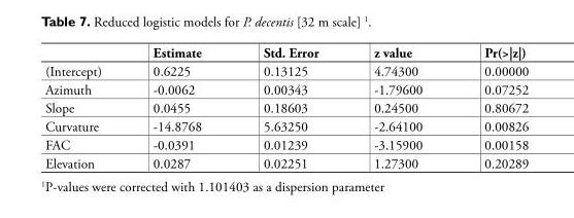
<table><thead><tr><td></td><td>Estimate</td><td>Std. Error</td><td>z value</td><td>Pr(&gt;|z|)</td></tr></thead><tbody><tr><td>(Intercept)</td><td>0.6225</td><td>0.13125</td><td>4.74300</td><td>0.00000</td></tr><tr><td>Azimuth</td><td>-0.0062</td><td>0.00343</td><td>-1.79600</td><td>0.07252</td></tr><tr><td>Slope</td><td>0.0455</td><td>0.18603</td><td>0.24500</td><td>0.80672</td></tr><tr><td>Curvature</td><td>-14.8768</td><td>5.63250</td><td>-2.64100</td><td>0.00826</td></tr><tr><td>FAC</td><td>-0.0391</td><td>0.01239</td><td>-3.15900</td><td>0.00158</td></tr><tr><td>Elevation</td><td>0.0287</td><td>0.02251</td><td>1.27300</td><td>0.20289</td></tr></tbody></table>